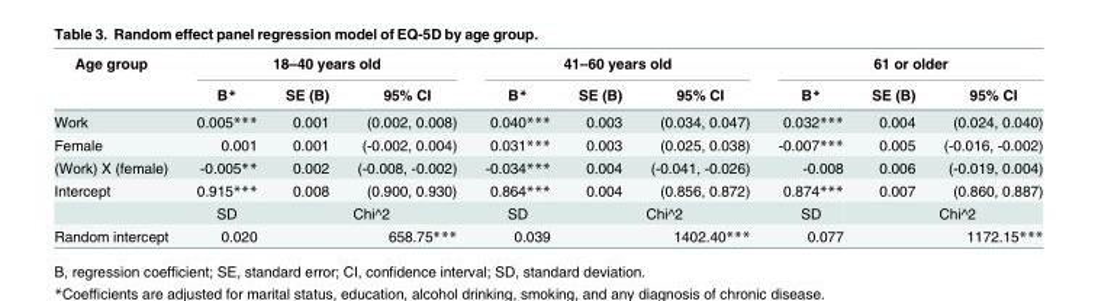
<table><thead><tr><td rowspan="2">Age group</td><td colspan="3">18–40 years old</td><td colspan="3">41–60 years old</td><td colspan="3">61 or older</td></tr><tr><td>B*</td><td>SE (B)</td><td>95% CI</td><td>B*</td><td>SE (B)</td><td>95% CI</td><td>B*</td><td>SE (B)</td><td>95% CI</td></tr></thead><tbody><tr><td>Work</td><td>0.005***</td><td>0.001</td><td>(0.002, 0.008)</td><td>0.040***</td><td>0.003</td><td>(0.034, 0.047)</td><td>0.032***</td><td>0.004</td><td>(0.024, 0.040)</td></tr><tr><td>Female</td><td>0.001</td><td>0.001</td><td>(-0.002, 0.004)</td><td>0.031***</td><td>0.003</td><td>(0.025, 0.038)</td><td>-0.007***</td><td>0.005</td><td>(-0.016, -0.002)</td></tr><tr><td>(Work) X (female)</td><td>-0.005**</td><td>0.002</td><td>(-0.008, -0.002)</td><td>-0.034***</td><td>0.004</td><td>(-0.041, -0.026)</td><td>-0.008</td><td>0.006</td><td>(-0.019, 0.004)</td></tr><tr><td rowspan="2">Intercept</td><td>0.915***</td><td>0.008</td><td>(0.900, 0.930)</td><td>0.864***</td><td>0.004</td><td>(0.856, 0.872)</td><td>0.874***</td><td>0.007</td><td>(0.860, 0.887)</td></tr><tr><td>SD</td><td colspan="2">Chi^2</td><td>SD</td><td colspan="2">Chi^2</td><td>SD</td><td colspan="2">Chi^2</td></tr><tr><td>Random intercept</td><td>0.020</td><td colspan="2">658.75***</td><td>0.039</td><td colspan="2">1402.40***</td><td>0.077</td><td colspan="2">1172.15***</td></tr></tbody></table>